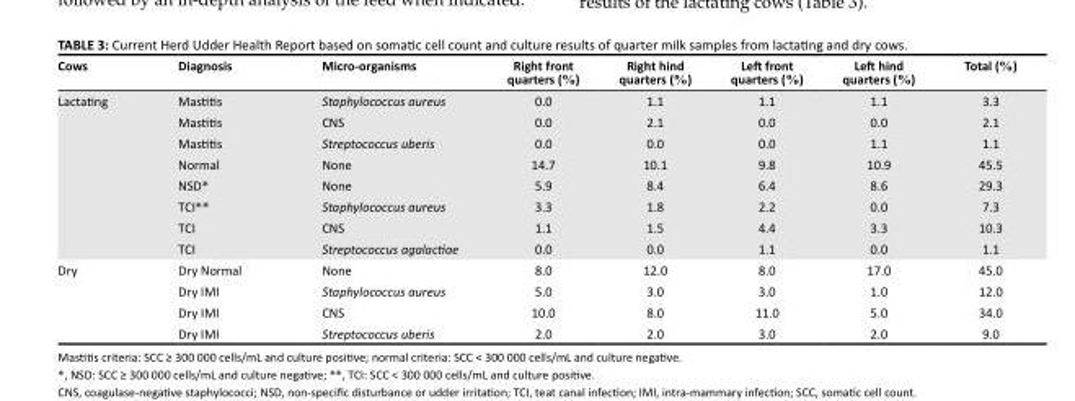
<table><thead><tr><td>Cows</td><td>Diagnosis</td><td>Micro-organisms</td><td>Right front quarters (%)</td><td>Right hind quarters (%)</td><td>Left front quarters (%)</td><td>Left hind quarters (%)</td><td>Total (%)</td></tr></thead><tbody><tr><td rowspan="8">Lactating</td><td>Mastitis</td><td>Staphylococcus aureus</td><td>0.0</td><td>1.1</td><td>1.1</td><td>1.1</td><td>3.3</td></tr><tr><td>Mastitis</td><td>CNS</td><td>0.0</td><td>2.1</td><td>0.0</td><td>0.0</td><td>2.1</td></tr><tr><td>Mastitis</td><td>Streptococcus uberis</td><td>0.0</td><td>0.0</td><td>0.0</td><td>1.1</td><td>1.1</td></tr><tr><td>Normal</td><td>None</td><td>14.7</td><td>10.1</td><td>9.8</td><td>10.9</td><td>45.5</td></tr><tr><td>NSD*</td><td>None</td><td>5.9</td><td>8.4</td><td>6.4</td><td>8.6</td><td>29.3</td></tr><tr><td>TCI**</td><td>Staphylococcus aureus</td><td>3.3</td><td>1.8</td><td>2.2</td><td>0.0</td><td>7.3</td></tr><tr><td>TCI</td><td>CNS</td><td>1.1</td><td>1.5</td><td>4.4</td><td>3.3</td><td>10.3</td></tr><tr><td>TCI</td><td>Streptococcus agalactiae</td><td>0.0</td><td>0.0</td><td>1.1</td><td>0.0</td><td>1.1</td></tr><tr><td rowspan="4">Dry</td><td>Dry Normal</td><td>None</td><td>8.0</td><td>12.0</td><td>8.0</td><td>17.0</td><td>45.0</td></tr><tr><td>Dry IMI</td><td>Staphylococcus aureus</td><td>5.0</td><td>3.0</td><td>3.0</td><td>1.0</td><td>12.0</td></tr><tr><td>Dry IMI</td><td>CNS</td><td>10.0</td><td>8.0</td><td>11.0</td><td>5.0</td><td>34.0</td></tr><tr><td>Dry IMI</td><td>Streptococcus uberis</td><td>2.0</td><td>2.0</td><td>3.0</td><td>2.0</td><td>9.0</td></tr></tbody></table>